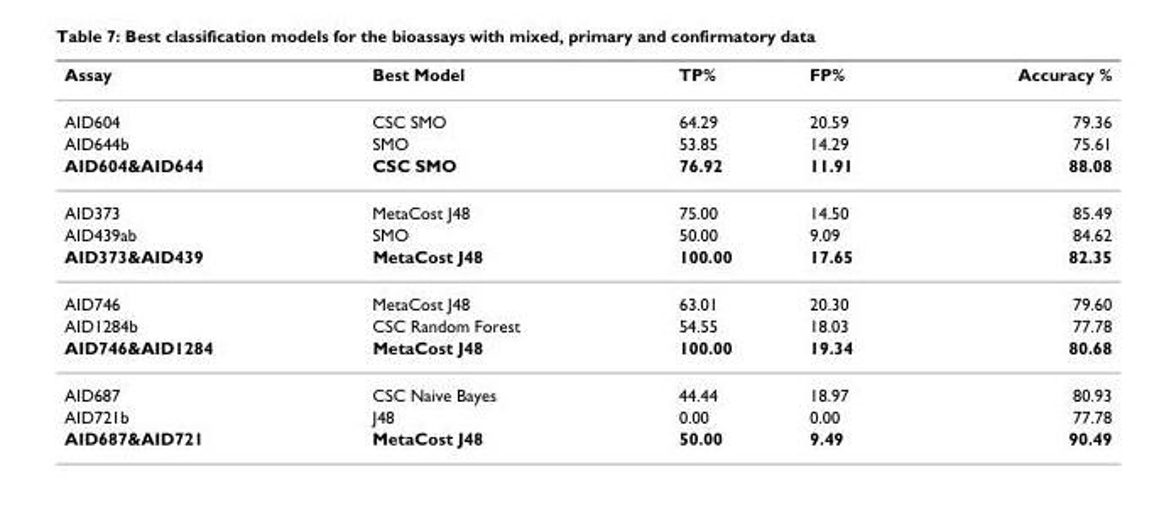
<table><thead><tr><td>Assay</td><td>Best Model</td><td>TP%</td><td>FP%</td><td>Accuracy %</td></tr></thead><tbody><tr><td>AID604</td><td>CSC SMO</td><td>64.29</td><td>20.59</td><td>79.36</td></tr><tr><td>AID644b</td><td>SMO</td><td>53.85</td><td>14.29</td><td>75.61</td></tr><tr><td>AID604&amp;AID644</td><td>CSC SMO</td><td>76.92</td><td>11.91</td><td>88.08</td></tr><tr><td>AID373</td><td>MetaCost J48</td><td>75.00</td><td>14.50</td><td>85.49</td></tr><tr><td>AID439ab</td><td>SMO</td><td>50.00</td><td>9.09</td><td>84.62</td></tr><tr><td>AID373&amp;AID439</td><td>MetaCost J48</td><td>100.00</td><td>17.65</td><td>82.35</td></tr><tr><td>AID746</td><td>MetaCost J48</td><td>63.01</td><td>20.30</td><td>79.60</td></tr><tr><td>AID1284b</td><td>CSC Random Forest</td><td>54.55</td><td>18.03</td><td>77.78</td></tr><tr><td>AID746&amp;AID1284</td><td>MetaCost J48</td><td>100.00</td><td>19.34</td><td>80.68</td></tr><tr><td>AID687</td><td>CSC Naive Bayes</td><td>44.44</td><td>18.97</td><td>80.93</td></tr><tr><td>AID721b</td><td>J48</td><td>0.00</td><td>0.00</td><td>77.78</td></tr><tr><td>AID687&amp;AID721</td><td>MetaCost J48</td><td>50.00</td><td>9.49</td><td>90.49</td></tr></tbody></table>